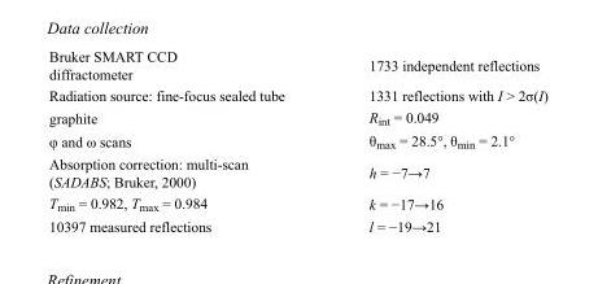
<table><tbody><tr><td>Bruker SMART CCD diffractometer</td><td>1733 independent reflections</td></tr><tr><td>Radiation source: fine-focus sealed tube</td><td>1331 reflections with I &gt; 2σ(I)</td></tr><tr><td>graphite</td><td>R<sub>int</sub> = 0.049</td></tr><tr><td>φ and ω scans</td><td>θ<sub>max</sub> = 28.5°, θ<sub>min</sub> = 2.1°</td></tr><tr><td>Absorption correction: multi-scan (SADABS; Bruker, 2000)</td><td>h = −7→7</td></tr><tr><td>T<sub>min</sub> = 0.982, T<sub>max</sub> = 0.984</td><td>k = −17→16</td></tr><tr><td>10397 measured reflections</td><td>l = −19→21</td></tr></tbody></table>